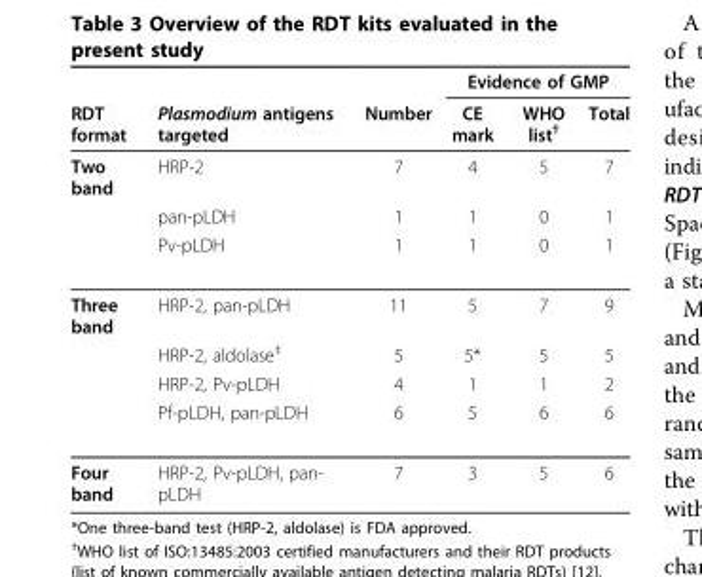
<table><thead><tr><td rowspan="2">RDT format</td><td rowspan="2">Plasmodium antigens targeted</td><td rowspan="2">Number</td><td colspan="3">Evidence of GMP</td></tr><tr><td>CE mark</td><td>WHO list<sup>†</sup></td><td>Total</td></tr></thead><tbody><tr><td rowspan="3">Two band</td><td>HRP-2</td><td>7</td><td>4</td><td>5</td><td>7</td></tr><tr><td>pan-pLDH</td><td>1</td><td>1</td><td>0</td><td>1</td></tr><tr><td>Pv-pLDH</td><td>1</td><td>1</td><td>0</td><td>1</td></tr><tr><td rowspan="4">Three band</td><td>HRP-2, pan-pLDH</td><td>11</td><td>5</td><td>7</td><td>9</td></tr><tr><td>HRP-2, aldolase<sup>‡</sup></td><td>5</td><td>5*</td><td>5</td><td>5</td></tr><tr><td>HRP-2, Pv-pLDH</td><td>4</td><td>1</td><td>1</td><td>2</td></tr><tr><td>Pf-pLDH, pan-pLDH</td><td>6</td><td>5</td><td>6</td><td>6</td></tr><tr><td>Four band</td><td>HRP-2, Pv-pLDH, pan- pLDH</td><td>7</td><td>3</td><td>5</td><td>6</td></tr></tbody></table>